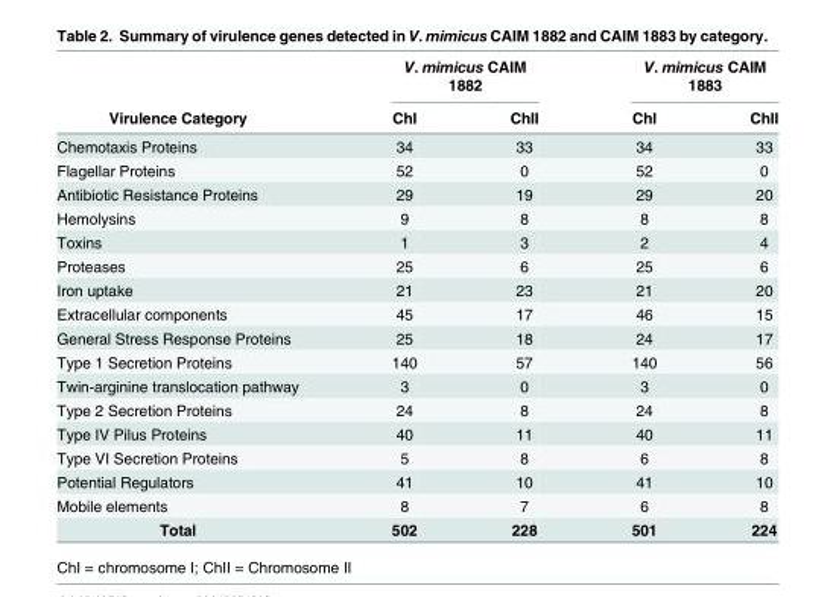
<table><thead><tr><td rowspan="2">Virulence Category</td><td colspan="2">V. mimicus CAIM 1882</td><td colspan="2">V. mimicus CAIM 1883</td></tr><tr><td>ChI</td><td>ChII</td><td>ChI</td><td>ChII</td></tr></thead><tbody><tr><td>Chemotaxis Proteins</td><td>34</td><td>33</td><td>34</td><td>33</td></tr><tr><td>Flagellar Proteins</td><td>52</td><td>0</td><td>52</td><td>0</td></tr><tr><td>Antibiotic Resistance Proteins</td><td>29</td><td>19</td><td>29</td><td>20</td></tr><tr><td>Hemolysins</td><td>9</td><td>8</td><td>8</td><td>8</td></tr><tr><td>Toxins</td><td>1</td><td>3</td><td>2</td><td>4</td></tr><tr><td>Proteases</td><td>25</td><td>6</td><td>25</td><td>6</td></tr><tr><td>Iron uptake</td><td>21</td><td>23</td><td>21</td><td>20</td></tr><tr><td>Extracellular components</td><td>45</td><td>17</td><td>46</td><td>15</td></tr><tr><td>General Stress Response Proteins</td><td>25</td><td>18</td><td>24</td><td>17</td></tr><tr><td>Type 1 Secretion Proteins</td><td>140</td><td>57</td><td>140</td><td>56</td></tr><tr><td>Twin-arginine translocation pathway</td><td>3</td><td>0</td><td>3</td><td>0</td></tr><tr><td>Type 2 Secretion Proteins</td><td>24</td><td>8</td><td>24</td><td>8</td></tr><tr><td>Type IV Pilus Proteins</td><td>40</td><td>11</td><td>40</td><td>11</td></tr><tr><td>Type VI Secretion Proteins</td><td>5</td><td>8</td><td>6</td><td>8</td></tr><tr><td>Potential Regulators</td><td>41</td><td>10</td><td>41</td><td>10</td></tr><tr><td>Mobile elements</td><td>8</td><td>7</td><td>6</td><td>8</td></tr><tr><td>Total</td><td>502</td><td>228</td><td>501</td><td>224</td></tr></tbody></table>